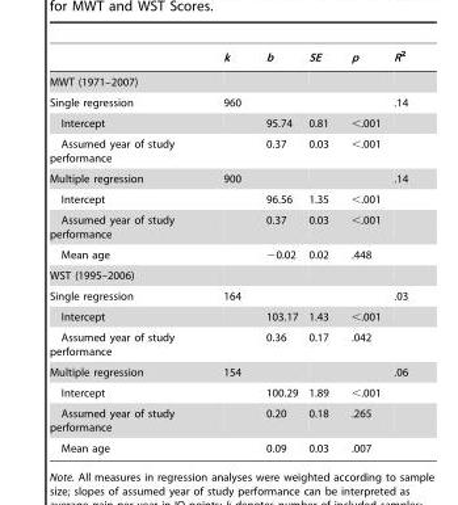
<table><thead><tr><td></td><td>k</td><td>b</td><td>SE</td><td>p</td><td>R<sup>2</sup></td></tr></thead><tbody><tr><td colspan="6">MWT (1971–2007)</td></tr><tr><td>Single regression</td><td>960</td><td></td><td></td><td></td><td>.14</td></tr><tr><td>Intercept</td><td></td><td>95.74</td><td>0.81</td><td>&lt;.001</td><td></td></tr><tr><td>Assumed year of study performance</td><td></td><td>0.37</td><td>0.03</td><td>&lt;.001</td><td></td></tr><tr><td>Multiple regression</td><td>900</td><td></td><td></td><td></td><td>.14</td></tr><tr><td>Intercept</td><td></td><td>96.56</td><td>1.35</td><td>&lt;.001</td><td></td></tr><tr><td>Assumed year of study performance</td><td></td><td>0.37</td><td>0.03</td><td>&lt;.001</td><td></td></tr><tr><td>Mean age</td><td></td><td>−0.02</td><td>0.02</td><td>.448</td><td></td></tr><tr><td colspan="6">WST (1995–2006)</td></tr><tr><td>Single regression</td><td>164</td><td></td><td></td><td></td><td>.03</td></tr><tr><td>Intercept</td><td></td><td>103.17</td><td>1.43</td><td>&lt;.001</td><td></td></tr><tr><td>Assumed year of study performance</td><td></td><td>0.36</td><td>0.17</td><td>.042</td><td></td></tr><tr><td>Multiple regression</td><td>154</td><td></td><td></td><td></td><td>.06</td></tr><tr><td>Intercept</td><td></td><td>100.29</td><td>1.89</td><td>&lt;.001</td><td></td></tr><tr><td>Assumed year of study performance</td><td></td><td>0.20</td><td>0.18</td><td>.265</td><td></td></tr><tr><td>Mean age</td><td></td><td>0.09</td><td>0.03</td><td>.007</td><td></td></tr></tbody></table>